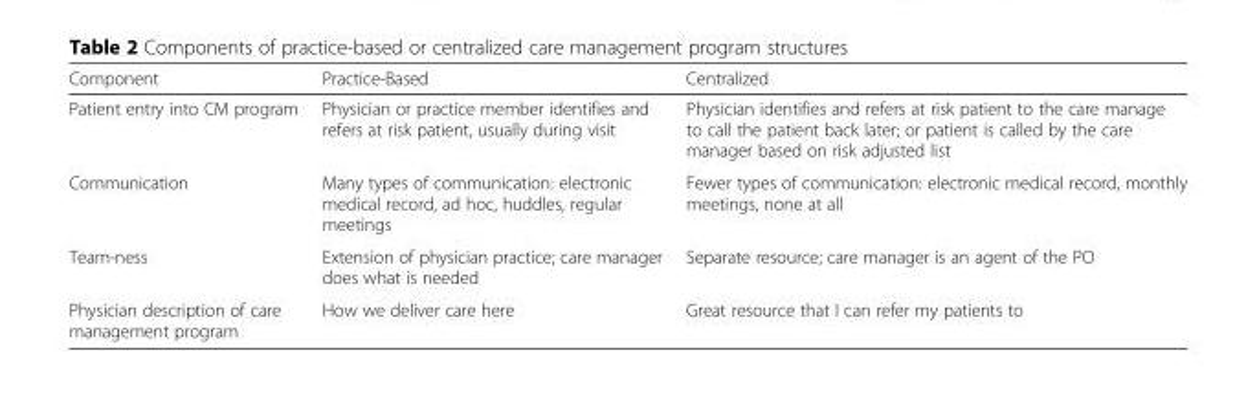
<table><thead><tr><td>Component</td><td>Practice-Based</td><td>Centralized</td></tr></thead><tbody><tr><td>Patient entry into CM program</td><td>Physician or practice member identifies and refers at risk patient, usually during visit</td><td>Physician identifies and refers at risk patient to the care manage to call the patient back later; or patient is called by the care manager based on risk adjusted list</td></tr><tr><td>Communication</td><td>Many types of communication: electronic medical record, ad hoc, huddles, regular meetings</td><td>Fewer types of communication: electronic medical record, monthly meetings, none at all</td></tr><tr><td>Team-ness</td><td>Extension of physician practice; care manager does what is needed</td><td>Separate resource; care manager is an agent of the PO</td></tr><tr><td>Physician description of care management program</td><td>How we deliver care here</td><td>Great resource that I can refer my patients to</td></tr></tbody></table>